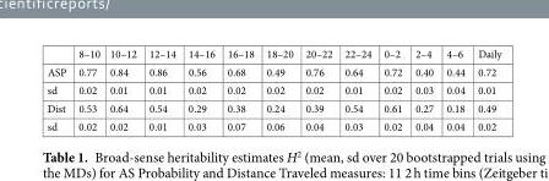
<table><thead><tr><td></td><td>8–10</td><td>10–12</td><td>12–14</td><td>14–16</td><td>16–18</td><td>18–20</td><td>20–22</td><td>22–24</td><td>0–2</td><td>2–4</td><td>4–6</td><td>Daily</td></tr></thead><tbody><tr><td>ASP</td><td>0.77</td><td>0.84</td><td>0.86</td><td>0.56</td><td>0.68</td><td>0.49</td><td>0.76</td><td>0.64</td><td>0.72</td><td>0.40</td><td>0.44</td><td>0.72</td></tr><tr><td>sd</td><td>0.02</td><td>0.01</td><td>0.01</td><td>0.02</td><td>0.02</td><td>0.02</td><td>0.02</td><td>0.01</td><td>0.02</td><td>0.03</td><td>0.04</td><td>0.01</td></tr><tr><td>Dist</td><td>0.53</td><td>0.64</td><td>0.54</td><td>0.29</td><td>0.38</td><td>0.24</td><td>0.39</td><td>0.54</td><td>0.61</td><td>0.27</td><td>0.18</td><td>0.49</td></tr><tr><td>sd</td><td>0.02</td><td>0.02</td><td>0.01</td><td>0.03</td><td>0.07</td><td>0.06</td><td>0.04</td><td>0.03</td><td>0.02</td><td>0.04</td><td>0.04</td><td>0.02</td></tr></tbody></table>